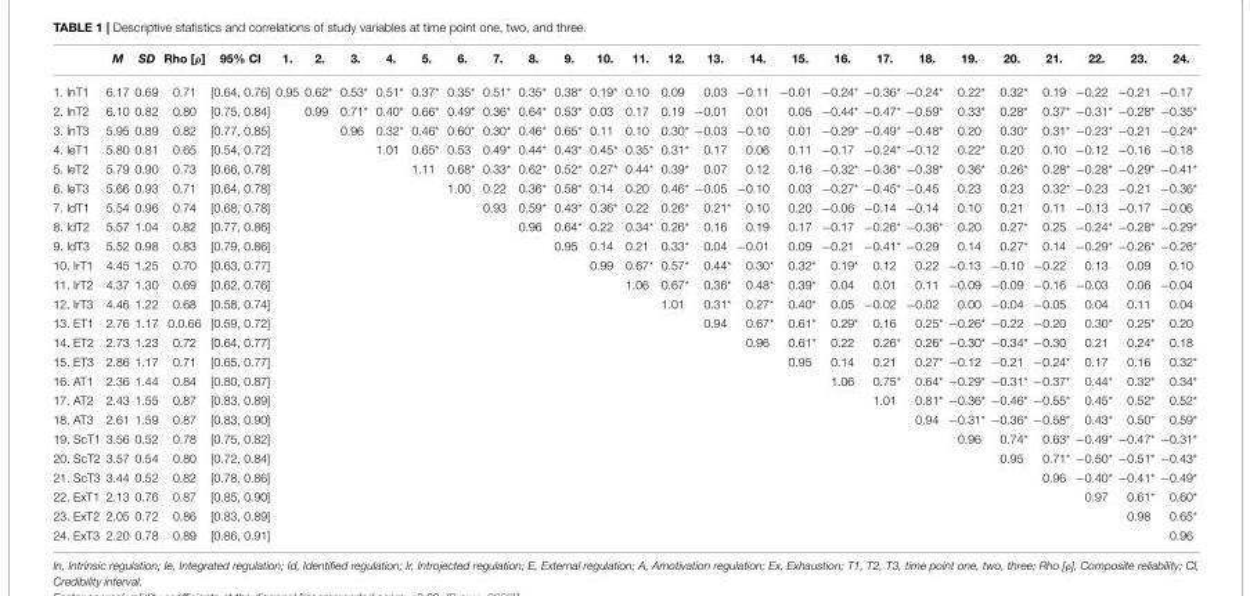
<table><thead><tr><td></td><td>M</td><td>SD</td><td>Rho [ρ]</td><td>95% CI</td><td>1.</td><td>2.</td><td>3.</td><td>4.</td><td>5.</td><td>6.</td><td>7.</td><td>8.</td><td>9.</td><td>10.</td><td>11.</td><td>12.</td><td>13.</td><td>14.</td><td>15.</td><td>16.</td><td>17.</td><td>18.</td><td>19.</td><td>20.</td><td>21.</td><td>22.</td><td>23.</td><td>24.</td></tr></thead><tbody><tr><td>1. InT1</td><td>6.17</td><td>0.69</td><td>0.71</td><td>[0.64, 0.76]</td><td>0.95</td><td>0.62*</td><td>0.53*</td><td>0.51*</td><td>0.37*</td><td>0.35*</td><td>0.51*</td><td>0.35*</td><td>0.38*</td><td>0.19*</td><td>0.10</td><td>0.09</td><td>0.03</td><td>−0.11</td><td>−0.01</td><td>−0.24*</td><td>−0.36*</td><td>−0.24*</td><td>0.22*</td><td>0.32*</td><td>0.19</td><td>−0.22</td><td>−0.21</td><td>−0.17</td></tr><tr><td>2. InT2</td><td>6.10</td><td>0.82</td><td>0.80</td><td>[0.75, 0.84]</td><td></td><td>0.99</td><td>0.71*</td><td>0.40*</td><td>0.66*</td><td>0.49*</td><td>0.36*</td><td>0.64*</td><td>0.53*</td><td>0.03</td><td>0.17</td><td>0.19</td><td>−0.01</td><td>0.01</td><td>0.05</td><td>−0.44*</td><td>−0.47*</td><td>−0.59*</td><td>0.33*</td><td>0.28*</td><td>0.37*</td><td>−0.31*</td><td>−0.28*</td><td>−0.35*</td></tr><tr><td>3. InT3</td><td>5.95</td><td>0.89</td><td>0.82</td><td>[0.77, 0.85]</td><td></td><td></td><td>0.96</td><td>0.32*</td><td>0.46*</td><td>0.60*</td><td>0.30*</td><td>0.46*</td><td>0.65*</td><td>0.11</td><td>0.10</td><td>0.30*</td><td>−0.03</td><td>−0.10</td><td>0.01</td><td>−0.29*</td><td>−0.49*</td><td>−0.48*</td><td>0.20</td><td>0.30*</td><td>0.31*</td><td>−0.23*</td><td>−0.21</td><td>−0.24*</td></tr><tr><td>4. IeT1</td><td>5.80</td><td>0.81</td><td>0.65</td><td>[0.54, 0.72]</td><td></td><td></td><td></td><td>1.01</td><td>0.65*</td><td>0.53</td><td>0.49*</td><td>0.44*</td><td>0.43*</td><td>0.45*</td><td>0.35*</td><td>0.31*</td><td>0.17</td><td>0.06</td><td>0.11</td><td>−0.17</td><td>−0.24*</td><td>−0.12</td><td>0.22*</td><td>0.20</td><td>0.10</td><td>−0.12</td><td>−0.16</td><td>−0.18</td></tr><tr><td>5. IeT2</td><td>5.79</td><td>0.90</td><td>0.73</td><td>[0.66, 0.78]</td><td></td><td></td><td></td><td></td><td>1.11</td><td>0.68*</td><td>0.33*</td><td>0.62*</td><td>0.52*</td><td>0.27*</td><td>0.44*</td><td>0.39*</td><td>0.07</td><td>0.12</td><td>0.16</td><td>−0.32*</td><td>−0.36*</td><td>−0.38*</td><td>0.36*</td><td>0.26*</td><td>0.28*</td><td>−0.28*</td><td>−0.29*</td><td>−0.41*</td></tr><tr><td>6. IeT3</td><td>5.66</td><td>0.93</td><td>0.71</td><td>[0.64, 0.78]</td><td></td><td></td><td></td><td></td><td></td><td>1.00</td><td>0.22</td><td>0.36*</td><td>0.58*</td><td>0.14</td><td>0.20</td><td>0.46*</td><td>−0.05</td><td>−0.10</td><td>0.03</td><td>−0.27*</td><td>−0.45*</td><td>−0.45</td><td>0.23</td><td>0.23</td><td>0.32*</td><td>−0.23</td><td>−0.21</td><td>−0.36*</td></tr><tr><td>7. IdT1</td><td>5.54</td><td>0.96</td><td>0.74</td><td>[0.68, 0.78]</td><td></td><td></td><td></td><td></td><td></td><td></td><td>0.93</td><td>0.59*</td><td>0.43*</td><td>0.36*</td><td>0.22</td><td>0.26*</td><td>0.21*</td><td>0.10</td><td>0.20</td><td>−0.06</td><td>−0.14</td><td>−0.14</td><td>0.10</td><td>0.21</td><td>0.11</td><td>−0.13</td><td>−0.17</td><td>−0.06</td></tr><tr><td>8. IdT2</td><td>5.57</td><td>1.04</td><td>0.82</td><td>[0.77, 0.86]</td><td></td><td></td><td></td><td></td><td></td><td></td><td></td><td>0.96</td><td>0.64*</td><td>0.22</td><td>0.34*</td><td>0.26*</td><td>0.16</td><td>0.19</td><td>0.17</td><td>−0.17</td><td>−0.26*</td><td>−0.36*</td><td>0.20</td><td>0.27*</td><td>0.25</td><td>−0.24*</td><td>−0.28*</td><td>−0.29*</td></tr><tr><td>9. IdT3</td><td>5.52</td><td>0.98</td><td>0.83</td><td>[0.79, 0.86]</td><td></td><td></td><td></td><td></td><td></td><td></td><td></td><td></td><td>0.95</td><td>0.14</td><td>0.21</td><td>0.33*</td><td>0.04</td><td>−0.01</td><td>0.09</td><td>−0.21</td><td>−0.41*</td><td>−0.29</td><td>0.14</td><td>0.27*</td><td>0.14</td><td>−0.29*</td><td>−0.26*</td><td>−0.26*</td></tr><tr><td>10. IrT1</td><td>4.45</td><td>1.25</td><td>0.70</td><td>[0.63, 0.77]</td><td></td><td></td><td></td><td></td><td></td><td></td><td></td><td></td><td></td><td>0.99</td><td>0.67*</td><td>0.57*</td><td>0.44*</td><td>0.30*</td><td>0.32*</td><td>0.19*</td><td>0.12</td><td>0.22</td><td>−0.13</td><td>−0.10</td><td>−0.22</td><td>0.13</td><td>0.09</td><td>0.10</td></tr><tr><td>11. IrT2</td><td>4.37</td><td>1.30</td><td>0.69</td><td>[0.62, 0.76]</td><td></td><td></td><td></td><td></td><td></td><td></td><td></td><td></td><td></td><td></td><td>1.06</td><td>0.67*</td><td>0.36*</td><td>0.48*</td><td>0.39*</td><td>0.04</td><td>0.01</td><td>0.11</td><td>−0.09</td><td>−0.09</td><td>−0.16</td><td>−0.03</td><td>0.06</td><td>−0.04</td></tr><tr><td>12. IrT3</td><td>4.46</td><td>1.22</td><td>0.68</td><td>[0.58, 0.74]</td><td></td><td></td><td></td><td></td><td></td><td></td><td></td><td></td><td></td><td></td><td></td><td>1.01</td><td>0.31*</td><td>0.27*</td><td>0.40*</td><td>0.05</td><td>−0.02</td><td>−0.02</td><td>0.00</td><td>−0.04</td><td>−0.05</td><td>0.04</td><td>0.11</td><td>0.04</td></tr><tr><td>13. ET1</td><td>2.76</td><td>1.17</td><td>0.0.66</td><td>[0.59, 0.72]</td><td></td><td></td><td></td><td></td><td></td><td></td><td></td><td></td><td></td><td></td><td></td><td></td><td>0.94</td><td>0.67*</td><td>0.61*</td><td>0.29*</td><td>0.16</td><td>0.25*</td><td>−0.26*</td><td>−0.22</td><td>−0.20</td><td>0.30*</td><td>0.25*</td><td>0.20</td></tr><tr><td>14. ET2</td><td>2.73</td><td>1.23</td><td>0.72</td><td>[0.64, 0.77]</td><td></td><td></td><td></td><td></td><td></td><td></td><td></td><td></td><td></td><td></td><td></td><td></td><td></td><td>0.96</td><td>0.61*</td><td>0.22</td><td>0.26*</td><td>0.26*</td><td>−0.30*</td><td>−0.34*</td><td>−0.30</td><td>0.21</td><td>0.24*</td><td>0.18</td></tr><tr><td>15. ET3</td><td>2.86</td><td>1.17</td><td>0.71</td><td>[0.65, 0.77]</td><td></td><td></td><td></td><td></td><td></td><td></td><td></td><td></td><td></td><td></td><td></td><td></td><td></td><td></td><td>0.95</td><td>0.14</td><td>0.21</td><td>0.27*</td><td>−0.12</td><td>−0.21</td><td>−0.24*</td><td>0.17</td><td>0.16</td><td>0.32*</td></tr><tr><td>16. AT1</td><td>2.36</td><td>1.44</td><td>0.84</td><td>[0.80, 0.87]</td><td></td><td></td><td></td><td></td><td></td><td></td><td></td><td></td><td></td><td></td><td></td><td></td><td></td><td></td><td></td><td>1.06</td><td>0.75*</td><td>0.64*</td><td>−0.29*</td><td>−0.31*</td><td>−0.37*</td><td>0.44*</td><td>0.32*</td><td>0.34*</td></tr><tr><td>17. AT2</td><td>2.43</td><td>1.55</td><td>0.87</td><td>[0.83, 0.89]</td><td></td><td></td><td></td><td></td><td></td><td></td><td></td><td></td><td></td><td></td><td></td><td></td><td></td><td></td><td></td><td></td><td>1.01</td><td>0.81*</td><td>−0.36*</td><td>−0.46*</td><td>−0.55*</td><td>0.45*</td><td>0.52*</td><td>0.52*</td></tr><tr><td>18. AT3</td><td>2.61</td><td>1.59</td><td>0.87</td><td>[0.83, 0.90]</td><td></td><td></td><td></td><td></td><td></td><td></td><td></td><td></td><td></td><td></td><td></td><td></td><td></td><td></td><td></td><td></td><td></td><td>0.94</td><td>−0.31*</td><td>−0.36*</td><td>−0.58*</td><td>0.43*</td><td>0.50*</td><td>0.59*</td></tr><tr><td>19. ScT1</td><td>3.56</td><td>0.52</td><td>0.78</td><td>[0.75, 0.82]</td><td></td><td></td><td></td><td></td><td></td><td></td><td></td><td></td><td></td><td></td><td></td><td></td><td></td><td></td><td></td><td></td><td></td><td></td><td>0.96</td><td>0.74*</td><td>0.63*</td><td>−0.49*</td><td>−0.47*</td><td>−0.31*</td></tr><tr><td>20. ScT2</td><td>3.57</td><td>0.54</td><td>0.80</td><td>[0.72, 0.84]</td><td></td><td></td><td></td><td></td><td></td><td></td><td></td><td></td><td></td><td></td><td></td><td></td><td></td><td></td><td></td><td></td><td></td><td></td><td></td><td>0.95</td><td>0.71*</td><td>−0.50*</td><td>−0.51*</td><td>−0.43*</td></tr><tr><td>21. ScT3</td><td>3.44</td><td>0.52</td><td>0.82</td><td>[0.78, 0.86]</td><td></td><td></td><td></td><td></td><td></td><td></td><td></td><td></td><td></td><td></td><td></td><td></td><td></td><td></td><td></td><td></td><td></td><td></td><td></td><td></td><td>0.96</td><td>−0.40*</td><td>−0.41*</td><td>−0.49*</td></tr><tr><td>22. ExT1</td><td>2.13</td><td>0.76</td><td>0.87</td><td>[0.85, 0.90]</td><td></td><td></td><td></td><td></td><td></td><td></td><td></td><td></td><td></td><td></td><td></td><td></td><td></td><td></td><td></td><td></td><td></td><td></td><td></td><td></td><td></td><td>0.97</td><td>0.61*</td><td>0.60*</td></tr><tr><td>23. ExT2</td><td>2.05</td><td>0.72</td><td>0.86</td><td>[0.83, 0.89]</td><td></td><td></td><td></td><td></td><td></td><td></td><td></td><td></td><td></td><td></td><td></td><td></td><td></td><td></td><td></td><td></td><td></td><td></td><td></td><td></td><td></td><td></td><td>0.98</td><td>0.65*</td></tr><tr><td>24. ExT3</td><td>2.20</td><td>0.78</td><td>0.89</td><td>[0.86, 0.91]</td><td></td><td></td><td></td><td></td><td></td><td></td><td></td><td></td><td></td><td></td><td></td><td></td><td></td><td></td><td></td><td></td><td></td><td></td><td></td><td></td><td></td><td></td><td></td><td>0.96</td></tr></tbody></table>